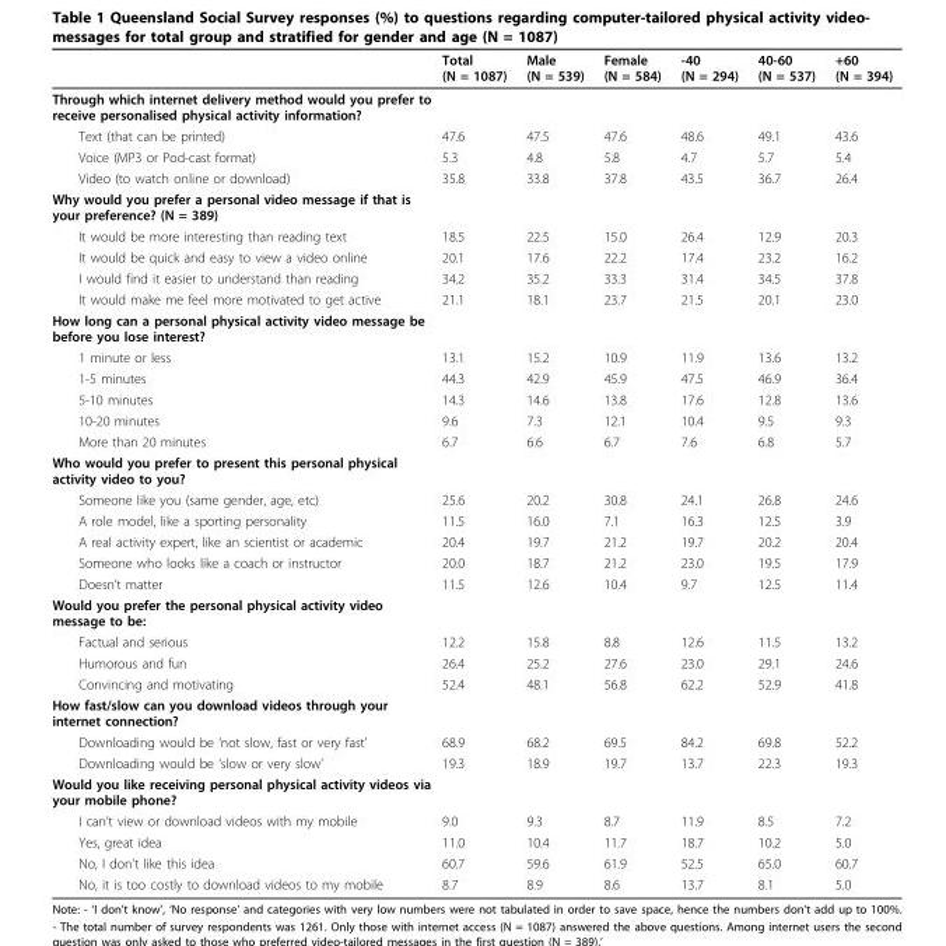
<table><thead><tr><td></td><td>Total (N = 1087)</td><td>Male (N = 539)</td><td>Female (N = 584)</td><td>-40 (N = 294)</td><td>40-60 (N = 537)</td><td>+60 (N = 394)</td></tr></thead><tbody><tr><td colspan="7">Through which internet delivery method would you prefer to receive personalised physical activity information?</td></tr><tr><td>Text (that can be printed)</td><td>47.6</td><td>47.5</td><td>47.6</td><td>48.6</td><td>49.1</td><td>43.6</td></tr><tr><td>Voice (MP3 or Pod-cast format)</td><td>5.3</td><td>4.8</td><td>5.8</td><td>4.7</td><td>5.7</td><td>5.4</td></tr><tr><td>Video (to watch online or download)</td><td>35.8</td><td>33.8</td><td>37.8</td><td>43.5</td><td>36.7</td><td>26.4</td></tr><tr><td colspan="7">Why would you prefer a personal video message if that is your preference? (N = 389)</td></tr><tr><td>It would be more interesting than reading text</td><td>18.5</td><td>22.5</td><td>15.0</td><td>26.4</td><td>12.9</td><td>20.3</td></tr><tr><td>It would be quick and easy to view a video online</td><td>20.1</td><td>17.6</td><td>22.2</td><td>17.4</td><td>23.2</td><td>16.2</td></tr><tr><td>I would find it easier to understand than reading</td><td>34.2</td><td>35.2</td><td>33.3</td><td>31.4</td><td>34.5</td><td>37.8</td></tr><tr><td>It would make me feel more motivated to get active</td><td>21.1</td><td>18.1</td><td>23.7</td><td>21.5</td><td>20.1</td><td>23.0</td></tr><tr><td colspan="7">How long can a personal physical activity video message be before you lose interest?</td></tr><tr><td>1 minute or less</td><td>13.1</td><td>15.2</td><td>10.9</td><td>11.9</td><td>13.6</td><td>13.2</td></tr><tr><td>1-5 minutes</td><td>44.3</td><td>42.9</td><td>45.9</td><td>47.5</td><td>46.9</td><td>36.4</td></tr><tr><td>5-10 minutes</td><td>14.3</td><td>14.6</td><td>13.8</td><td>17.6</td><td>12.8</td><td>13.6</td></tr><tr><td>10-20 minutes</td><td>9.6</td><td>7.3</td><td>12.1</td><td>10.4</td><td>9.5</td><td>9.3</td></tr><tr><td>More than 20 minutes</td><td>6.7</td><td>6.6</td><td>6.7</td><td>7.6</td><td>6.8</td><td>5.7</td></tr><tr><td colspan="7">Who would you prefer to present this personal physical activity video to you?</td></tr><tr><td>Someone like you (same gender, age, etc)</td><td>25.6</td><td>20.2</td><td>30.8</td><td>24.1</td><td>26.8</td><td>24.6</td></tr><tr><td>A role model, like a sporting personality</td><td>11.5</td><td>16.0</td><td>7.1</td><td>16.3</td><td>12.5</td><td>3.9</td></tr><tr><td>A real activity expert, like an scientist or academic</td><td>20.4</td><td>19.7</td><td>21.2</td><td>19.7</td><td>20.2</td><td>20.4</td></tr><tr><td>Someone who looks like a coach or instructor</td><td>20.0</td><td>18.7</td><td>21.2</td><td>23.0</td><td>19.5</td><td>17.9</td></tr><tr><td>Doesn’t matter</td><td>11.5</td><td>12.6</td><td>10.4</td><td>9.7</td><td>12.5</td><td>11.4</td></tr><tr><td colspan="7">Would you prefer the personal physical activity video message to be:</td></tr><tr><td>Factual and serious</td><td>12.2</td><td>15.8</td><td>8.8</td><td>12.6</td><td>11.5</td><td>13.2</td></tr><tr><td>Humorous and fun</td><td>26.4</td><td>25.2</td><td>27.6</td><td>23.0</td><td>29.1</td><td>24.6</td></tr><tr><td>Convincing and motivating</td><td>52.4</td><td>48.1</td><td>56.8</td><td>62.2</td><td>52.9</td><td>41.8</td></tr><tr><td colspan="7">How fast/slow can you download videos through your internet connection?</td></tr><tr><td>Downloading would be ‘not slow, fast or very fast’</td><td>68.9</td><td>68.2</td><td>69.5</td><td>84.2</td><td>69.8</td><td>52.2</td></tr><tr><td>Downloading would be ‘slow or very slow’</td><td>19.3</td><td>18.9</td><td>19.7</td><td>13.7</td><td>22.3</td><td>19.3</td></tr><tr><td colspan="7">Would you like receiving personal physical activity videos via your mobile phone?</td></tr><tr><td>I can’t view or download videos with my mobile</td><td>9.0</td><td>9.3</td><td>8.7</td><td>11.9</td><td>8.5</td><td>7.2</td></tr><tr><td>Yes, great idea</td><td>11.0</td><td>10.4</td><td>11.7</td><td>18.7</td><td>10.2</td><td>5.0</td></tr><tr><td>No, I don’t like this idea</td><td>60.7</td><td>59.6</td><td>61.9</td><td>52.5</td><td>65.0</td><td>60.7</td></tr><tr><td>No, it is too costly to download videos to my mobile</td><td>8.7</td><td>8.9</td><td>8.6</td><td>13.7</td><td>8.1</td><td>5.0</td></tr></tbody></table>